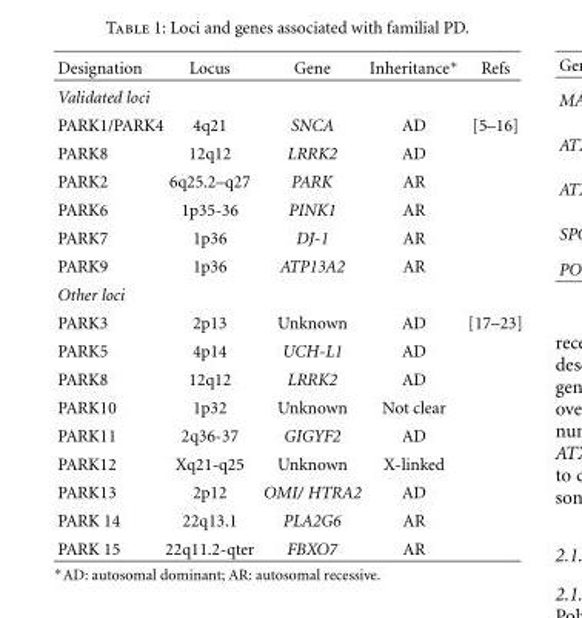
<table><thead><tr><td>Designation</td><td>Locus</td><td>Gene</td><td>Inheritance∗</td><td>Refs</td></tr></thead><tbody><tr><td colspan="5">Validated loci</td></tr><tr><td>PARK1/PARK4</td><td>4q21</td><td>SNCA</td><td>AD</td><td>[5–16]</td></tr><tr><td>PARK8</td><td>12q12</td><td>LRRK2</td><td>AD</td><td></td></tr><tr><td>PARK2</td><td>6q25.2–q27</td><td>PARK</td><td>AR</td><td></td></tr><tr><td>PARK6</td><td>1p35-36</td><td>PINK1</td><td>AR</td><td></td></tr><tr><td>PARK7</td><td>1p36</td><td>DJ-1</td><td>AR</td><td></td></tr><tr><td>PARK9</td><td>1p36</td><td>ATP13A2</td><td>AR</td><td></td></tr><tr><td colspan="5">Other loci</td></tr><tr><td>PARK3</td><td>2p13</td><td>Unknown</td><td>AD</td><td>[17–23]</td></tr><tr><td>PARK5</td><td>4p14</td><td>UCH-L1</td><td>AD</td><td></td></tr><tr><td>PARK8</td><td>12q12</td><td>LRRK2</td><td>AD</td><td></td></tr><tr><td>PARK10</td><td>1p32</td><td>Unknown</td><td>Not clear</td><td></td></tr><tr><td>PARK11</td><td>2q36-37</td><td>GIGYF2</td><td>AD</td><td></td></tr><tr><td>PARK12</td><td>Xq21-q25</td><td>Unknown</td><td>X-linked</td><td></td></tr><tr><td>PARK13</td><td>2p12</td><td>OMI/ HTRA2</td><td>AD</td><td></td></tr><tr><td>PARK 14</td><td>22q13.1</td><td>PLA2G6</td><td>AR</td><td></td></tr><tr><td>PARK 15</td><td>22q11.2-qter</td><td>FBXO7</td><td>AR</td><td></td></tr></tbody></table>